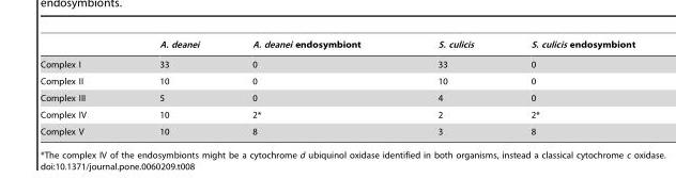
<table><thead><tr><td></td><td>A. deanei</td><td>A. deanei endosymbiont</td><td>S. culicis</td><td>S. culicis endosymbiont</td></tr></thead><tbody><tr><td>Complex I</td><td>33</td><td>0</td><td>33</td><td>0</td></tr><tr><td>Complex II</td><td>10</td><td>0</td><td>10</td><td>0</td></tr><tr><td>Complex III</td><td>5</td><td>0</td><td>4</td><td>0</td></tr><tr><td>Complex IV</td><td>10</td><td>2*</td><td>2</td><td>2*</td></tr><tr><td>Complex V</td><td>10</td><td>8</td><td>3</td><td>8</td></tr></tbody></table>